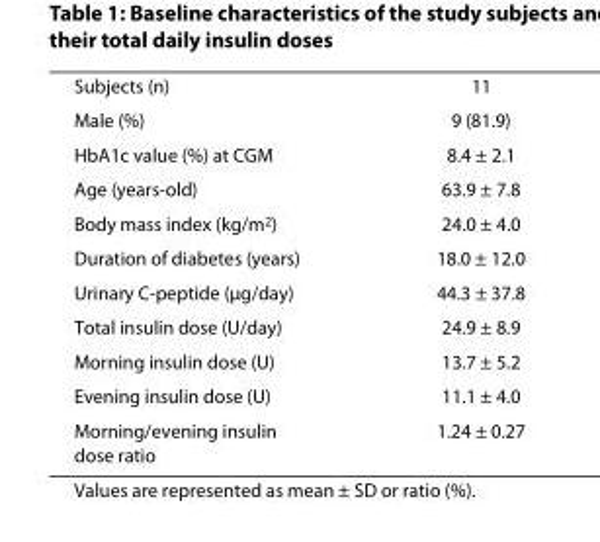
<table><tbody><tr><td>Subjects (n)</td><td>11</td></tr><tr><td>Male (%)</td><td>9 (81.9)</td></tr><tr><td>HbA1c value (%) at CGM</td><td>8.4 ± 2.1</td></tr><tr><td>Age (years-old)</td><td>63.9 ± 7.8</td></tr><tr><td>Body mass index (kg/m<sup>2</sup>)</td><td>24.0 ± 4.0</td></tr><tr><td>Duration of diabetes (years)</td><td>18.0 ± 12.0</td></tr><tr><td>Urinary C-peptide (μg/day)</td><td>44.3 ± 37.8</td></tr><tr><td>Total insulin dose (U/day)</td><td>24.9 ± 8.9</td></tr><tr><td>Morning insulin dose (U)</td><td>13.7 ± 5.2</td></tr><tr><td>Evening insulin dose (U)</td><td>11.1 ± 4.0</td></tr><tr><td>Morning/evening insulin dose ratio</td><td>1.24 ± 0.27</td></tr></tbody></table>